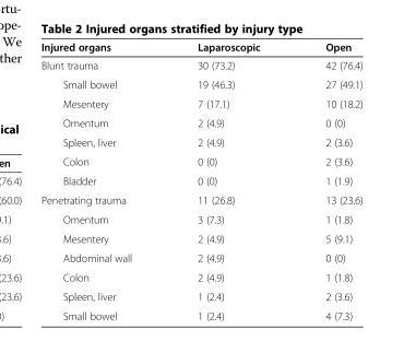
<table><thead><tr><td>Injured organs</td><td>Laparoscopic</td><td>Open</td></tr></thead><tbody><tr><td>Blunt trauma</td><td>30 (73.2)</td><td>42 (76.4)</td></tr><tr><td>Small bowel</td><td>19 (46.3)</td><td>27 (49.1)</td></tr><tr><td>Mesentery</td><td>7 (17.1)</td><td>10 (18.2)</td></tr><tr><td>Omentum</td><td>2 (4.9)</td><td>0 (0)</td></tr><tr><td>Spleen, liver</td><td>2 (4.9)</td><td>2 (3.6)</td></tr><tr><td>Colon</td><td>0 (0)</td><td>2 (3.6)</td></tr><tr><td>Bladder</td><td>0 (0)</td><td>1 (1.9)</td></tr><tr><td>Penetrating trauma</td><td>11 (26.8)</td><td>13 (23.6)</td></tr><tr><td>Omentum</td><td>3 (7.3)</td><td>1 (1.8)</td></tr><tr><td>Mesentery</td><td>2 (4.9)</td><td>5 (9.1)</td></tr><tr><td>Abdominal wall</td><td>2 (4.9)</td><td>0 (0)</td></tr><tr><td>Colon</td><td>2 (4.9)</td><td>1 (1.8)</td></tr><tr><td>Spleen, liver</td><td>1 (2.4)</td><td>2 (3.6)</td></tr><tr><td>Small bowel</td><td>1 (2.4)</td><td>4 (7.3)</td></tr></tbody></table>